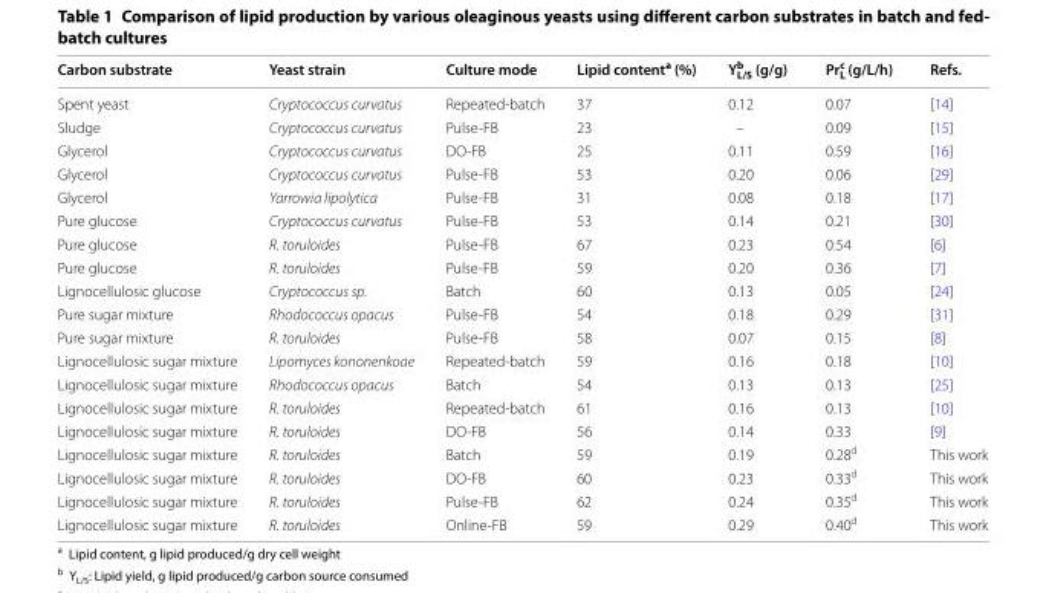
<table><thead><tr><td>Carbon substrate</td><td>Yeast strain</td><td>Culture mode</td><td>Lipid content<sup>a</sup> (%)</td><td>Yb L/S (g/g)</td><td>Pr<sub>L</sub> <sup>c</sup> (g/L/h)</td><td>Refs.</td></tr></thead><tbody><tr><td>Spent yeast</td><td>Cryptococcus curvatus</td><td>Repeated-batch</td><td>37</td><td>0.12</td><td>0.07</td><td>[14]</td></tr><tr><td>Sludge</td><td>Cryptococcus curvatus</td><td>Pulse-FB</td><td>23</td><td>–</td><td>0.09</td><td>[15]</td></tr><tr><td>Glycerol</td><td>Cryptococcus curvatus</td><td>DO-FB</td><td>25</td><td>0.11</td><td>0.59</td><td>[16]</td></tr><tr><td>Glycerol</td><td>Cryptococcus curvatus</td><td>Pulse-FB</td><td>53</td><td>0.20</td><td>0.06</td><td>[29]</td></tr><tr><td>Glycerol</td><td>Yarrowia lipolytica</td><td>Pulse-FB</td><td>31</td><td>0.08</td><td>0.18</td><td>[17]</td></tr><tr><td>Pure glucose</td><td>Cryptococcus curvatus</td><td>Pulse-FB</td><td>53</td><td>0.14</td><td>0.21</td><td>[30]</td></tr><tr><td>Pure glucose</td><td>R. toruloides</td><td>Pulse-FB</td><td>67</td><td>0.23</td><td>0.54</td><td>[6]</td></tr><tr><td>Pure glucose</td><td>R. toruloides</td><td>Pulse-FB</td><td>59</td><td>0.20</td><td>0.36</td><td>[7]</td></tr><tr><td>Lignocellulosic glucose</td><td>Cryptococcus sp.</td><td>Batch</td><td>60</td><td>0.13</td><td>0.05</td><td>[24]</td></tr><tr><td>Pure sugar mixture</td><td>Rhodococcus opacus</td><td>Pulse-FB</td><td>54</td><td>0.18</td><td>0.29</td><td>[31]</td></tr><tr><td>Pure sugar mixture</td><td>R. toruloides</td><td>Pulse-FB</td><td>58</td><td>0.07</td><td>0.15</td><td>[8]</td></tr><tr><td>Lignocellulosic sugar mixture</td><td>Lipomyces kononenkoae</td><td>Repeated-batch</td><td>59</td><td>0.16</td><td>0.18</td><td>[10]</td></tr><tr><td>Lignocellulosic sugar mixture</td><td>Rhodococcus opacus</td><td>Batch</td><td>54</td><td>0.13</td><td>0.13</td><td>[25]</td></tr><tr><td>Lignocellulosic sugar mixture</td><td>R. toruloides</td><td>Repeated-batch</td><td>61</td><td>0.16</td><td>0.13</td><td>[10]</td></tr><tr><td>Lignocellulosic sugar mixture</td><td>R. toruloides</td><td>DO-FB</td><td>56</td><td>0.14</td><td>0.33</td><td>[9]</td></tr><tr><td>Lignocellulosic sugar mixture</td><td>R. toruloides</td><td>Batch</td><td>59</td><td>0.19</td><td>0.28<sup>d</sup></td><td>This work</td></tr><tr><td>Lignocellulosic sugar mixture</td><td>R. toruloides</td><td>DO-FB</td><td>60</td><td>0.23</td><td>0.33<sup>d</sup></td><td>This work</td></tr><tr><td>Lignocellulosic sugar mixture</td><td>R. toruloides</td><td>Pulse-FB</td><td>62</td><td>0.24</td><td>0.35<sup>d</sup></td><td>This work</td></tr><tr><td>Lignocellulosic sugar mixture</td><td>R. toruloides</td><td>Online-FB</td><td>59</td><td>0.29</td><td>0.40<sup>d</sup></td><td>This work</td></tr></tbody></table>